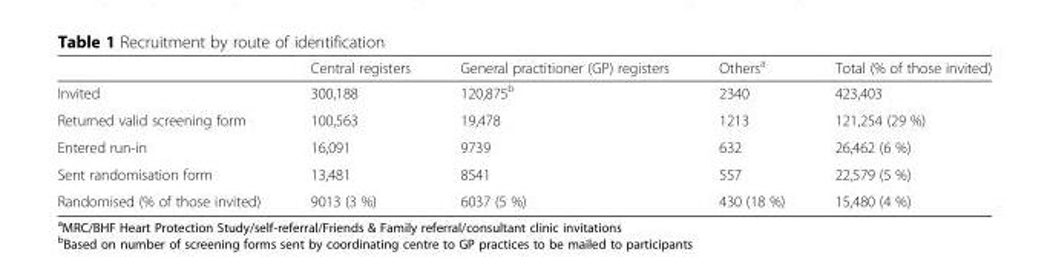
<table><thead><tr><td></td><td>Central registers</td><td>General practitioner (GP) registers</td><td>Others<sup>a</sup></td><td>Total (% of those invited)</td></tr></thead><tbody><tr><td>Invited</td><td>300,188</td><td>120,875<sup>b</sup></td><td>2340</td><td>423,403</td></tr><tr><td>Returned valid screening form</td><td>100,563</td><td>19,478</td><td>1213</td><td>121,254 (29 %)</td></tr><tr><td>Entered run-in</td><td>16,091</td><td>9739</td><td>632</td><td>26,462 (6 %)</td></tr><tr><td>Sent randomisation form</td><td>13,481</td><td>8541</td><td>557</td><td>22,579 (5 %)</td></tr><tr><td>Randomised (% of those invited)</td><td>9013 (3 %)</td><td>6037 (5 %)</td><td>430 (18 %)</td><td>15,480 (4 %)</td></tr></tbody></table>